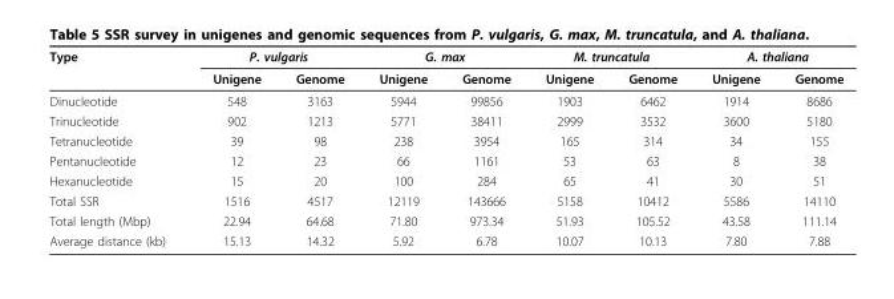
<table><thead><tr><td rowspan="2">Type</td><td colspan="2">P. vulgaris</td><td colspan="2">G. max</td><td colspan="2">M. truncatula</td><td colspan="2">A. thaliana</td></tr><tr><td>Unigene</td><td>Genome</td><td>Unigene</td><td>Genome</td><td>Unigene</td><td>Genome</td><td>Unigene</td><td>Genome</td></tr></thead><tbody><tr><td>Dinucleotide</td><td>548</td><td>3163</td><td>5944</td><td>99856</td><td>1903</td><td>6462</td><td>1914</td><td>8686</td></tr><tr><td>Trinucleotide</td><td>902</td><td>1213</td><td>5771</td><td>38411</td><td>2999</td><td>3532</td><td>3600</td><td>5180</td></tr><tr><td>Tetranucleotide</td><td>39</td><td>98</td><td>238</td><td>3954</td><td>165</td><td>314</td><td>34</td><td>155</td></tr><tr><td>Pentanucleotide</td><td>12</td><td>23</td><td>66</td><td>1161</td><td>53</td><td>63</td><td>8</td><td>38</td></tr><tr><td>Hexanucleotide</td><td>15</td><td>20</td><td>100</td><td>284</td><td>65</td><td>41</td><td>30</td><td>51</td></tr><tr><td>Total SSR</td><td>1516</td><td>4517</td><td>12119</td><td>143666</td><td>5158</td><td>10412</td><td>5586</td><td>14110</td></tr><tr><td>Total length (Mbp)</td><td>22.94</td><td>64.68</td><td>71.80</td><td>973.34</td><td>51.93</td><td>105.52</td><td>43.58</td><td>111.14</td></tr><tr><td>Average distance (kb)</td><td>15.13</td><td>14.32</td><td>5.92</td><td>6.78</td><td>10.07</td><td>10.13</td><td>7.80</td><td>7.88</td></tr></tbody></table>